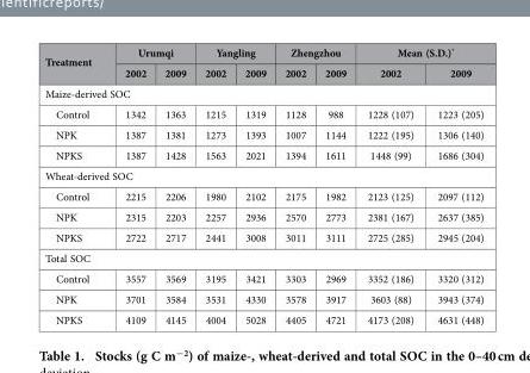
<table><thead><tr><td rowspan="2">Treatment</td><td colspan="2">Urumqi</td><td colspan="2">Yangling</td><td colspan="2">Zhengzhou</td><td colspan="2">Mean (S.D.)*</td></tr><tr><td>2002</td><td>2009</td><td>2002</td><td>2009</td><td>2002</td><td>2009</td><td>2002</td><td>2009</td></tr></thead><tbody><tr><td colspan="9">Maize-derived SOC</td></tr><tr><td>Control</td><td>1342</td><td>1363</td><td>1215</td><td>1319</td><td>1128</td><td>988</td><td>1228 (107)</td><td>1223 (205)</td></tr><tr><td>NPK</td><td>1387</td><td>1381</td><td>1273</td><td>1393</td><td>1007</td><td>1144</td><td>1222 (195)</td><td>1306 (140)</td></tr><tr><td>NPKS</td><td>1387</td><td>1428</td><td>1563</td><td>2021</td><td>1394</td><td>1611</td><td>1448 (99)</td><td>1686 (304)</td></tr><tr><td colspan="9">Wheat-derived SOC</td></tr><tr><td>Control</td><td>2215</td><td>2206</td><td>1980</td><td>2102</td><td>2175</td><td>1982</td><td>2123 (125)</td><td>2097 (112)</td></tr><tr><td>NPK</td><td>2315</td><td>2203</td><td>2257</td><td>2936</td><td>2570</td><td>2773</td><td>2381 (167)</td><td>2637 (385)</td></tr><tr><td>NPKS</td><td>2722</td><td>2717</td><td>2441</td><td>3008</td><td>3011</td><td>3111</td><td>2725 (285)</td><td>2945 (204)</td></tr><tr><td colspan="9">Total SOC</td></tr><tr><td>Control</td><td>3557</td><td>3569</td><td>3195</td><td>3421</td><td>3303</td><td>2969</td><td>3352 (186)</td><td>3320 (312)</td></tr><tr><td>NPK</td><td>3701</td><td>3584</td><td>3531</td><td>4330</td><td>3578</td><td>3917</td><td>3603 (88)</td><td>3943 (374)</td></tr><tr><td>NPKS</td><td>4109</td><td>4145</td><td>4004</td><td>5028</td><td>4405</td><td>4721</td><td>4173 (208)</td><td>4631 (448)</td></tr></tbody></table>